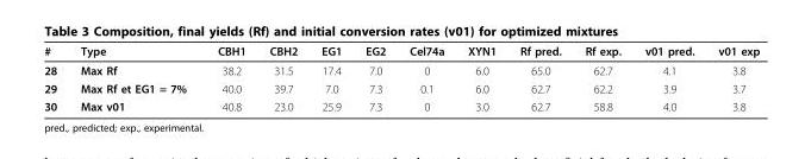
<table><thead><tr><td>#</td><td>Type</td><td>CBH1</td><td>CBH2</td><td>EG1</td><td>EG2</td><td>Cel74a</td><td>XYN1</td><td>Rf pred.</td><td>Rf exp.</td><td>v01 pred.</td><td>v01 exp</td></tr></thead><tbody><tr><td>28</td><td>Max Rf</td><td>38.2</td><td>31.5</td><td>17.4</td><td>7.0</td><td>0</td><td>6.0</td><td>65.0</td><td>62.7</td><td>4.1</td><td>3.8</td></tr><tr><td>29</td><td>Max Rf et EG1 = 7%</td><td>40.0</td><td>39.7</td><td>7.0</td><td>7.3</td><td>0.1</td><td>6.0</td><td>62.7</td><td>62.2</td><td>3.9</td><td>3.7</td></tr><tr><td>30</td><td>Max v01</td><td>40.8</td><td>23.0</td><td>25.9</td><td>7.3</td><td>0</td><td>3.0</td><td>62.7</td><td>58.8</td><td>4.0</td><td>3.8</td></tr></tbody></table>